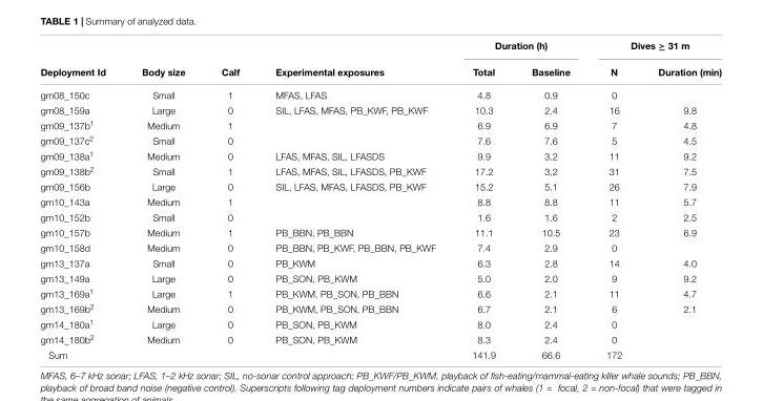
<table><thead><tr><td rowspan="2">Deployment Id</td><td rowspan="2">Body size</td><td rowspan="2">Calf</td><td rowspan="2">Experimental exposures</td><td colspan="2">Duration (h)</td><td colspan="2">Dives ≥ 31 m</td></tr><tr><td>Total</td><td>Baseline</td><td>N</td><td>Duration (min)</td></tr></thead><tbody><tr><td>gm08_150c</td><td>Small</td><td>1</td><td>MFAS, LFAS</td><td>4.8</td><td>0.9</td><td>0</td><td></td></tr><tr><td>gm08_159a</td><td>Large</td><td>0</td><td>SIL, LFAS, MFAS, PB_KWF, PB_KWF</td><td>10.3</td><td>2.4</td><td>16</td><td>9.8</td></tr><tr><td>gm09_137b<sup>1</sup></td><td>Medium</td><td>1</td><td></td><td>6.9</td><td>6.9</td><td>7</td><td>4.8</td></tr><tr><td>gm09_137c<sup>2</sup></td><td>Small</td><td>0</td><td></td><td>7.6</td><td>7.6</td><td>5</td><td>4.5</td></tr><tr><td>gm09_138a<sup>1</sup></td><td>Medium</td><td>0</td><td>LFAS, MFAS, SIL, LFASDS</td><td>9.9</td><td>3.2</td><td>11</td><td>9.2</td></tr><tr><td>gm09_138b<sup>2</sup></td><td>Small</td><td>1</td><td>LFAS, MFAS, SIL, LFASDS, PB_KWF</td><td>17.2</td><td>3.2</td><td>31</td><td>7.5</td></tr><tr><td>gm09_156b</td><td>Large</td><td>0</td><td>SIL, LFAS, MFAS, LFASDS, PB_KWF</td><td>15.2</td><td>5.1</td><td>26</td><td>7.9</td></tr><tr><td>gm10_143a</td><td>Medium</td><td>1</td><td></td><td>8.8</td><td>8.8</td><td>11</td><td>5.7</td></tr><tr><td>gm10_152b</td><td>Small</td><td>0</td><td></td><td>1.6</td><td>1.6</td><td>2</td><td>2.5</td></tr><tr><td>gm10_157b</td><td>Medium</td><td>1</td><td>PB_BBN, PB_BBN</td><td>11.1</td><td>10.5</td><td>23</td><td>6.9</td></tr><tr><td>gm10_158d</td><td>Medium</td><td>0</td><td>PB_BBN, PB_KWF, PB_BBN, PB_KWF</td><td>7.4</td><td>2.9</td><td>0</td><td></td></tr><tr><td>gm13_137a</td><td>Small</td><td>0</td><td>PB_KWM</td><td>6.3</td><td>2.8</td><td>14</td><td>4.0</td></tr><tr><td>gm13_149a</td><td>Large</td><td>0</td><td>PB_SON, PB_KWM</td><td>5.0</td><td>2.0</td><td>9</td><td>9.2</td></tr><tr><td>gm13_169a<sup>1</sup></td><td>Large</td><td>1</td><td>PB_KWM, PB_SON, PB_BBN</td><td>6.6</td><td>2.1</td><td>11</td><td>4.7</td></tr><tr><td>gm13_169b<sup>2</sup></td><td>Medium</td><td>0</td><td>PB_KWM, PB_SON, PB_BBN</td><td>6.7</td><td>2.1</td><td>6</td><td>2.1</td></tr><tr><td>gm14_180a<sup>1</sup></td><td>Large</td><td>0</td><td>PB_SON, PB_KWM</td><td>8.0</td><td>2.4</td><td>0</td><td></td></tr><tr><td>gm14_180b<sup>2</sup></td><td>Medium</td><td>0</td><td>PB_SON, PB_KWM</td><td>8.3</td><td>2.4</td><td>0</td><td></td></tr><tr><td colspan="4">Sum</td><td>141.9</td><td>66.6</td><td>172</td><td></td></tr></tbody></table>